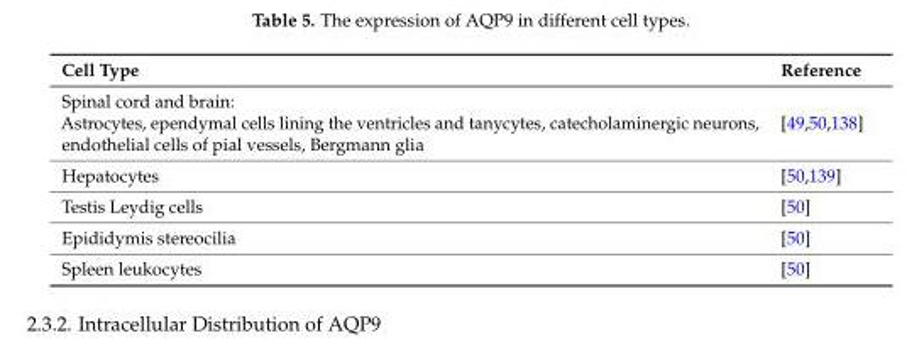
<table><thead><tr><td>Cell Type</td><td>Reference</td></tr></thead><tbody><tr><td>Spinal cord and brain: Astrocytes, ependymal cells lining the ventricles and tanycytes, catecholaminergic neurons, endothelial cells of pial vessels, Bergmann glia</td><td>[49,50,138]</td></tr><tr><td>Hepatocytes</td><td>[50,139]</td></tr><tr><td>Testis Leydig cells</td><td>[50]</td></tr><tr><td>Epididymis stereocilia</td><td>[50]</td></tr><tr><td>Spleen leukocytes</td><td>[50]</td></tr></tbody></table>